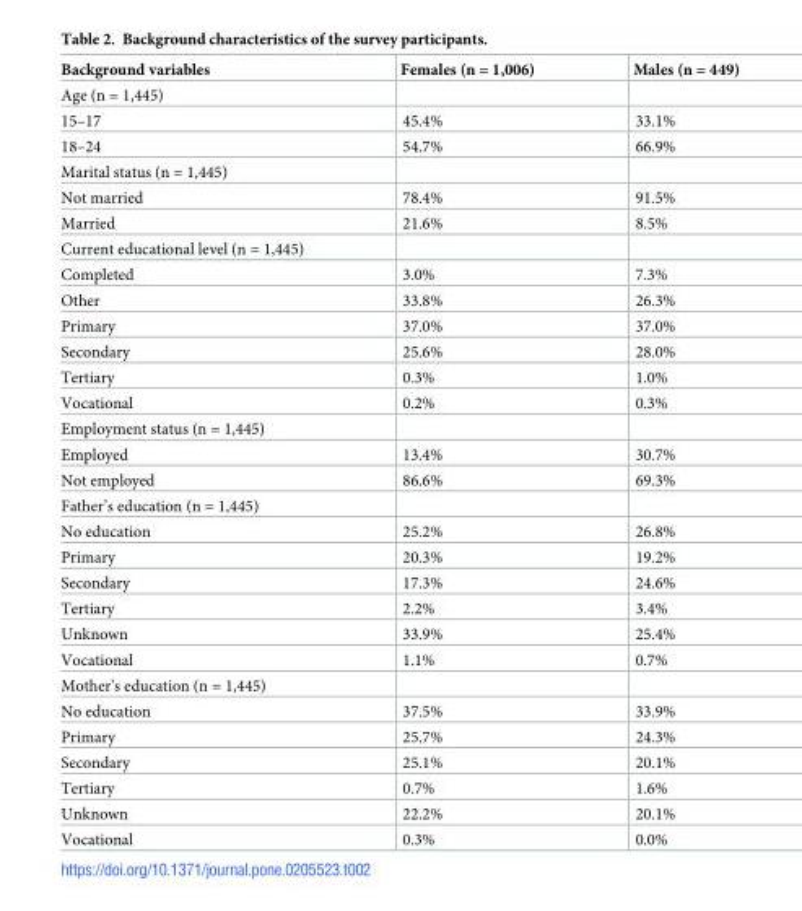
<table><thead><tr><td>Background variables</td><td>Females (n = 1,006)</td><td>Males (n = 449)</td></tr></thead><tbody><tr><td colspan="3">Age (n = 1,445)</td></tr><tr><td>15–17</td><td>45.4%</td><td>33.1%</td></tr><tr><td>18–24</td><td>54.7%</td><td>66.9%</td></tr><tr><td colspan="3">Marital status (n = 1,445)</td></tr><tr><td>Not married</td><td>78.4%</td><td>91.5%</td></tr><tr><td>Married</td><td>21.6%</td><td>8.5%</td></tr><tr><td colspan="3">Current educational level (n = 1,445)</td></tr><tr><td>Completed</td><td>3.0%</td><td>7.3%</td></tr><tr><td>Other</td><td>33.8%</td><td>26.3%</td></tr><tr><td>Primary</td><td>37.0%</td><td>37.0%</td></tr><tr><td>Secondary</td><td>25.6%</td><td>28.0%</td></tr><tr><td>Tertiary</td><td>0.3%</td><td>1.0%</td></tr><tr><td>Vocational</td><td>0.2%</td><td>0.3%</td></tr><tr><td colspan="3">Employment status (n = 1,445)</td></tr><tr><td>Employed</td><td>13.4%</td><td>30.7%</td></tr><tr><td>Not employed</td><td>86.6%</td><td>69.3%</td></tr><tr><td colspan="3">Father’s education (n = 1,445)</td></tr><tr><td>No education</td><td>25.2%</td><td>26.8%</td></tr><tr><td>Primary</td><td>20.3%</td><td>19.2%</td></tr><tr><td>Secondary</td><td>17.3%</td><td>24.6%</td></tr><tr><td>Tertiary</td><td>2.2%</td><td>3.4%</td></tr><tr><td>Unknown</td><td>33.9%</td><td>25.4%</td></tr><tr><td>Vocational</td><td>1.1%</td><td>0.7%</td></tr><tr><td colspan="3">Mother’s education (n = 1,445)</td></tr><tr><td>No education</td><td>37.5%</td><td>33.9%</td></tr><tr><td>Primary</td><td>25.7%</td><td>24.3%</td></tr><tr><td>Secondary</td><td>25.1%</td><td>20.1%</td></tr><tr><td>Tertiary</td><td>0.7%</td><td>1.6%</td></tr><tr><td>Unknown</td><td>22.2%</td><td>20.1%</td></tr><tr><td>Vocational</td><td>0.3%</td><td>0.0%</td></tr></tbody></table>